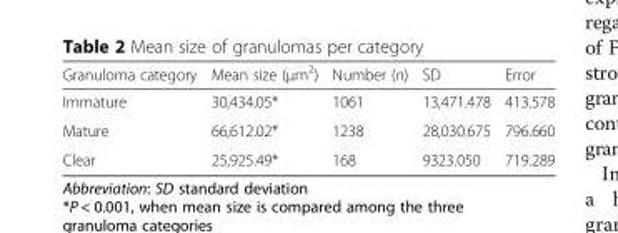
<table><thead><tr><td>Granuloma category</td><td>Mean size (μm<sup>2</sup>)</td><td>Number (n)</td><td>SD</td><td>Error</td></tr></thead><tbody><tr><td>Immature</td><td>30,434.05*</td><td>1061</td><td>13,471.478</td><td>413.578</td></tr><tr><td>Mature</td><td>66,612.02*</td><td>1238</td><td>28,030.675</td><td>796.660</td></tr><tr><td>Clear</td><td>25,925.49*</td><td>168</td><td>9323.050</td><td>719.289</td></tr></tbody></table>